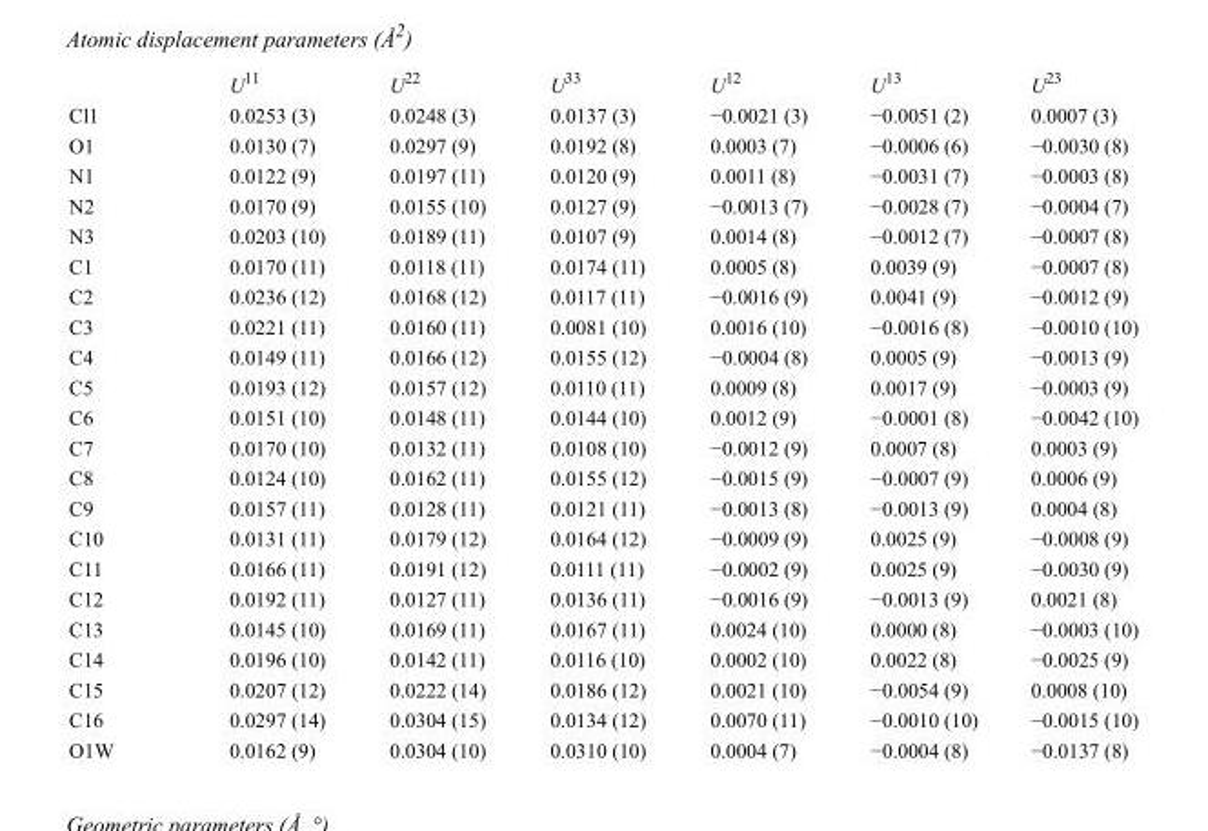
<table><thead><tr><td></td><td>U<sup>11</sup></td><td>U<sup>22</sup></td><td>U<sup>33</sup></td><td>U<sup>12</sup></td><td>U<sup>13</sup></td><td>U<sup>23</sup></td></tr></thead><tbody><tr><td>Cl1</td><td>0.0253 (3)</td><td>0.0248 (3)</td><td>0.0137 (3)</td><td>−0.0021 (3)</td><td>−0.0051 (2)</td><td>0.0007 (3)</td></tr><tr><td>O1</td><td>0.0130 (7)</td><td>0.0297 (9)</td><td>0.0192 (8)</td><td>0.0003 (7)</td><td>−0.0006 (6)</td><td>−0.0030 (8)</td></tr><tr><td>N1</td><td>0.0122 (9)</td><td>0.0197 (11)</td><td>0.0120 (9)</td><td>0.0011 (8)</td><td>−0.0031 (7)</td><td>−0.0003 (8)</td></tr><tr><td>N2</td><td>0.0170 (9)</td><td>0.0155 (10)</td><td>0.0127 (9)</td><td>−0.0013 (7)</td><td>−0.0028 (7)</td><td>−0.0004 (7)</td></tr><tr><td>N3</td><td>0.0203 (10)</td><td>0.0189 (11)</td><td>0.0107 (9)</td><td>0.0014 (8)</td><td>−0.0012 (7)</td><td>−0.0007 (8)</td></tr><tr><td>C1</td><td>0.0170 (11)</td><td>0.0118 (11)</td><td>0.0174 (11)</td><td>0.0005 (8)</td><td>0.0039 (9)</td><td>−0.0007 (8)</td></tr><tr><td>C2</td><td>0.0236 (12)</td><td>0.0168 (12)</td><td>0.0117 (11)</td><td>−0.0016 (9)</td><td>0.0041 (9)</td><td>−0.0012 (9)</td></tr><tr><td>C3</td><td>0.0221 (11)</td><td>0.0160 (11)</td><td>0.0081 (10)</td><td>0.0016 (10)</td><td>−0.0016 (8)</td><td>−0.0010 (10)</td></tr><tr><td>C4</td><td>0.0149 (11)</td><td>0.0166 (12)</td><td>0.0155 (12)</td><td>−0.0004 (8)</td><td>0.0005 (9)</td><td>−0.0013 (9)</td></tr><tr><td>C5</td><td>0.0193 (12)</td><td>0.0157 (12)</td><td>0.0110 (11)</td><td>0.0009 (8)</td><td>0.0017 (9)</td><td>−0.0003 (9)</td></tr><tr><td>C6</td><td>0.0151 (10)</td><td>0.0148 (11)</td><td>0.0144 (10)</td><td>0.0012 (9)</td><td>−0.0001 (8)</td><td>−0.0042 (10)</td></tr><tr><td>C7</td><td>0.0170 (10)</td><td>0.0132 (11)</td><td>0.0108 (10)</td><td>−0.0012 (9)</td><td>0.0007 (8)</td><td>0.0003 (9)</td></tr><tr><td>C8</td><td>0.0124 (10)</td><td>0.0162 (11)</td><td>0.0155 (12)</td><td>−0.0015 (9)</td><td>−0.0007 (9)</td><td>0.0006 (9)</td></tr><tr><td>C9</td><td>0.0157 (11)</td><td>0.0128 (11)</td><td>0.0121 (11)</td><td>−0.0013 (8)</td><td>−0.0013 (9)</td><td>0.0004 (8)</td></tr><tr><td>C10</td><td>0.0131 (11)</td><td>0.0179 (12)</td><td>0.0164 (12)</td><td>−0.0009 (9)</td><td>0.0025 (9)</td><td>−0.0008 (9)</td></tr><tr><td>C11</td><td>0.0166 (11)</td><td>0.0191 (12)</td><td>0.0111 (11)</td><td>−0.0002 (9)</td><td>0.0025 (9)</td><td>−0.0030 (9)</td></tr><tr><td>C12</td><td>0.0192 (11)</td><td>0.0127 (11)</td><td>0.0136 (11)</td><td>−0.0016 (9)</td><td>−0.0013 (9)</td><td>0.0021 (8)</td></tr><tr><td>C13</td><td>0.0145 (10)</td><td>0.0169 (11)</td><td>0.0167 (11)</td><td>0.0024 (10)</td><td>0.0000 (8)</td><td>−0.0003 (10)</td></tr><tr><td>C14</td><td>0.0196 (10)</td><td>0.0142 (11)</td><td>0.0116 (10)</td><td>0.0002 (10)</td><td>0.0022 (8)</td><td>−0.0025 (9)</td></tr><tr><td>C15</td><td>0.0207 (12)</td><td>0.0222 (14)</td><td>0.0186 (12)</td><td>0.0021 (10)</td><td>−0.0054 (9)</td><td>0.0008 (10)</td></tr><tr><td>C16</td><td>0.0297 (14)</td><td>0.0304 (15)</td><td>0.0134 (12)</td><td>0.0070 (11)</td><td>−0.0010 (10)</td><td>−0.0015 (10)</td></tr><tr><td>O1W</td><td>0.0162 (9)</td><td>0.0304 (10)</td><td>0.0310 (10)</td><td>0.0004 (7)</td><td>−0.0004 (8)</td><td>−0.0137 (8)</td></tr></tbody></table>